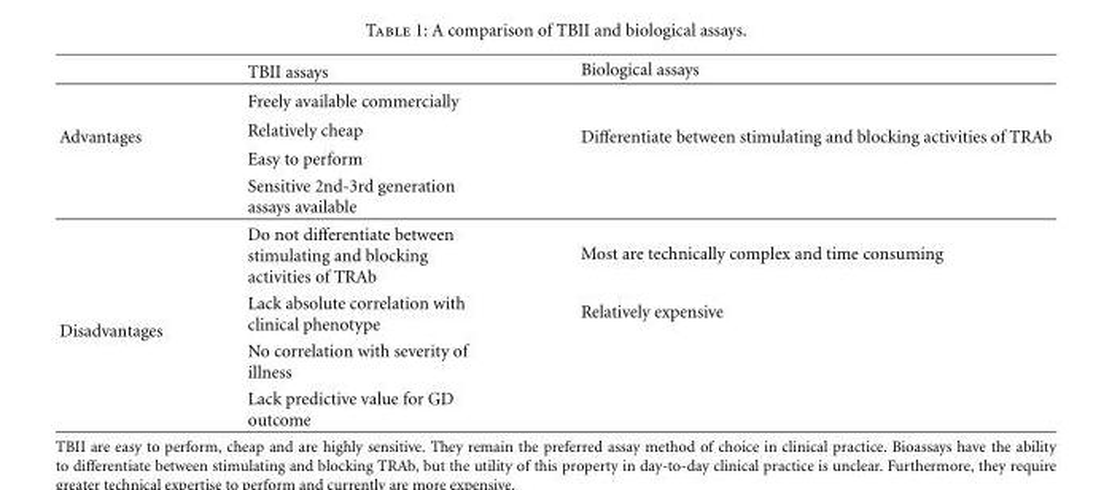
<table><thead><tr><td></td><td>TBII assays</td><td>Biological assays</td></tr></thead><tbody><tr><td rowspan="4">Advantages</td><td>Freely available commercially</td><td rowspan="4">Differentiate between stimulating and blocking activities of TRAb</td></tr><tr><td>Relatively cheap</td></tr><tr><td>Easy to perform</td></tr><tr><td>Sensitive 2nd-3rd generation assays available</td></tr><tr><td rowspan="4">Disadvantages</td><td>Do not differentiate between stimulating and blocking activities of TRAb</td><td>Most are technically complex and time consuming</td></tr><tr><td>Lack absolute correlation with clinical phenotype</td><td>Relatively expensive</td></tr><tr><td>No correlation with severity of illness</td><td></td></tr><tr><td>Lack predictive value for GD outcome</td><td></td></tr></tbody></table>